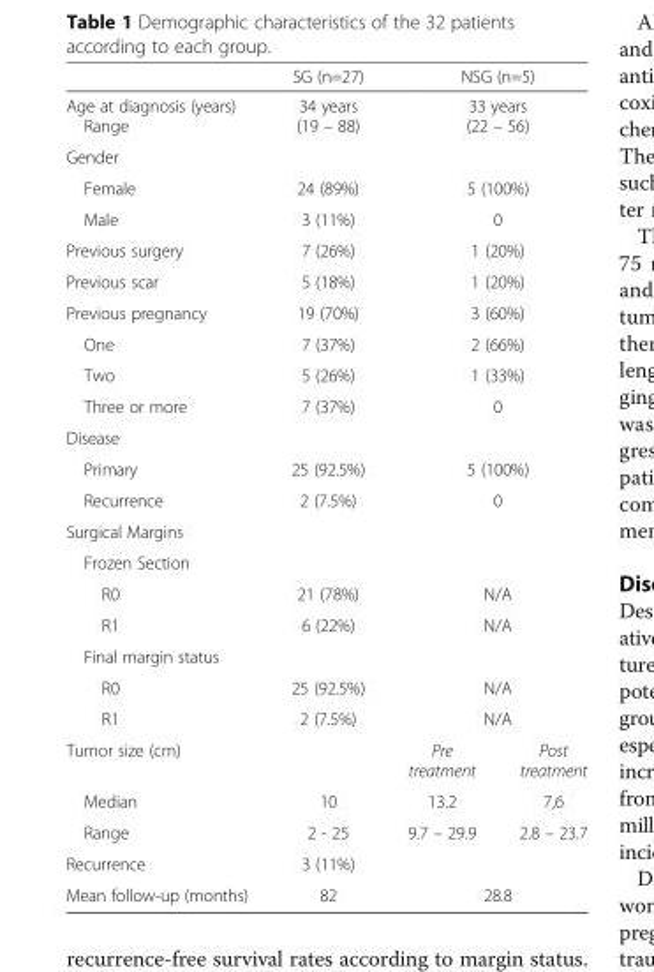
<table><thead><tr><td></td><td>SG (n=27)</td><td colspan="2">NSG (n=5)</td></tr></thead><tbody><tr><td>Age at diagnosis (years) Range</td><td>34 years (19 – 88)</td><td colspan="2">33 years (22 – 56)</td></tr><tr><td colspan="4">Gender</td></tr><tr><td>Female</td><td>24 (89%)</td><td colspan="2">5 (100%)</td></tr><tr><td>Male</td><td>3 (11%)</td><td colspan="2">0</td></tr><tr><td>Previous surgery</td><td>7 (26%)</td><td colspan="2">1 (20%)</td></tr><tr><td>Previous scar</td><td>5 (18%)</td><td colspan="2">1 (20%)</td></tr><tr><td>Previous pregnancy</td><td>19 (70%)</td><td colspan="2">3 (60%)</td></tr><tr><td>One</td><td>7 (37%)</td><td colspan="2">2 (66%)</td></tr><tr><td>Two</td><td>5 (26%)</td><td colspan="2">1 (33%)</td></tr><tr><td>Three or more</td><td>7 (37%)</td><td colspan="2">0</td></tr><tr><td colspan="4">Disease</td></tr><tr><td>Primary</td><td>25 (92.5%)</td><td colspan="2">5 (100%)</td></tr><tr><td>Recurrence</td><td>2 (7.5%)</td><td colspan="2">0</td></tr><tr><td colspan="4">Surgical Margins</td></tr><tr><td colspan="4">Frozen Section</td></tr><tr><td>R0</td><td>21 (78%)</td><td colspan="2">N/A</td></tr><tr><td>R1</td><td>6 (22%)</td><td colspan="2">N/A</td></tr><tr><td colspan="4">Final margin status</td></tr><tr><td>R0</td><td>25 (92.5%)</td><td colspan="2">N/A</td></tr><tr><td>R1</td><td>2 (7.5%)</td><td colspan="2">N/A</td></tr><tr><td>Tumor size (cm)</td><td></td><td>Pre treatment</td><td>Post treatment</td></tr><tr><td>Median</td><td>10</td><td>13.2</td><td>7,6</td></tr><tr><td>Range</td><td>2 - 25</td><td>9.7 – 29.9</td><td>2.8 – 23.7</td></tr><tr><td>Recurrence</td><td>3 (11%)</td><td></td><td></td></tr><tr><td>Mean follow-up (months)</td><td>82</td><td colspan="2">28.8</td></tr></tbody></table>